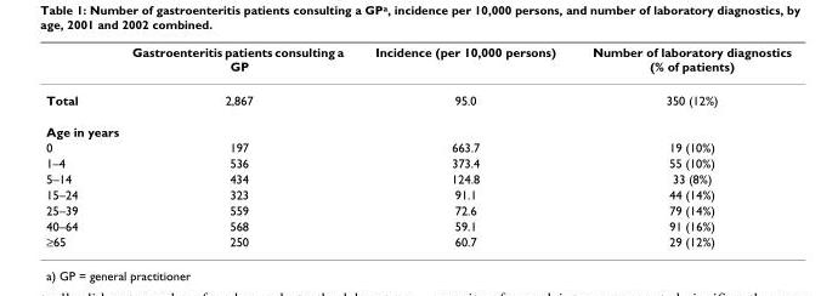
<table><thead><tr><td></td><td>Gastroenteritis patients consulting a GP</td><td>Incidence (per 10,000 persons)</td><td>Number of laboratory diagnostics (% of patients)</td></tr></thead><tbody><tr><td>Total</td><td>2,867</td><td>95.0</td><td>350 (12%)</td></tr><tr><td colspan="4">Age in years</td></tr><tr><td>0</td><td>197</td><td>663.7</td><td>19 (10%)</td></tr><tr><td>1–4</td><td>536</td><td>373.4</td><td>55 (10%)</td></tr><tr><td>5–14</td><td>434</td><td>124.8</td><td>33 (8%)</td></tr><tr><td>15–24</td><td>323</td><td>91.1</td><td>44 (14%)</td></tr><tr><td>25–39</td><td>559</td><td>72.6</td><td>79 (14%)</td></tr><tr><td>40–64</td><td>568</td><td>59.1</td><td>91 (16%)</td></tr><tr><td>≥65</td><td>250</td><td>60.7</td><td>29 (12%)</td></tr></tbody></table>